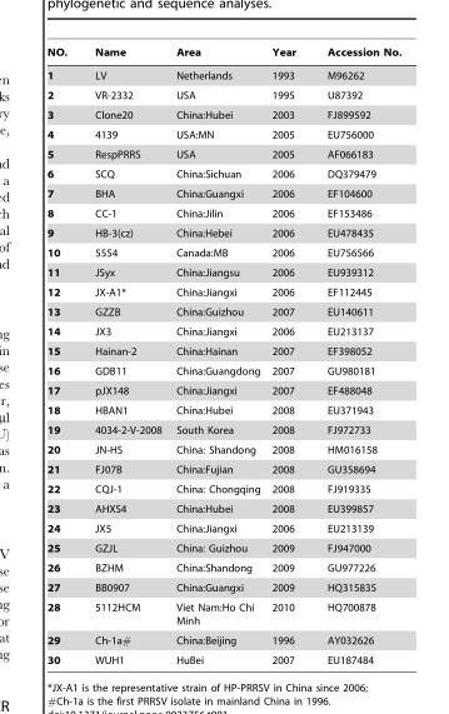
<table><thead><tr><td>NO.</td><td>Name</td><td>Area</td><td>Year</td><td>Accession No.</td></tr></thead><tbody><tr><td>1</td><td>LV</td><td>Netherlands</td><td>1993</td><td>M96262</td></tr><tr><td>2</td><td>VR-2332</td><td>USA</td><td>1995</td><td>U87392</td></tr><tr><td>3</td><td>Clone20</td><td>China:Hubei</td><td>2003</td><td>FJ899592</td></tr><tr><td>4</td><td>4139</td><td>USA:MN</td><td>2005</td><td>EU756000</td></tr><tr><td>5</td><td>RespPRRS</td><td>USA</td><td>2005</td><td>AF066183</td></tr><tr><td>6</td><td>SCQ</td><td>China:Sichuan</td><td>2006</td><td>DQ379479</td></tr><tr><td>7</td><td>BHA</td><td>China:Guangxi</td><td>2006</td><td>EF104600</td></tr><tr><td>8</td><td>CC-1</td><td>China:Jilin</td><td>2006</td><td>EF153486</td></tr><tr><td>9</td><td>HB-3(cz)</td><td>China:Hebei</td><td>2006</td><td>EU478435</td></tr><tr><td>10</td><td>5554</td><td>Canada:MB</td><td>2006</td><td>EU756566</td></tr><tr><td>11</td><td>JSyx</td><td>China:Jiangsu</td><td>2006</td><td>EU939312</td></tr><tr><td>12</td><td>JX-A1*</td><td>China:Jiangxi</td><td>2006</td><td>EF112445</td></tr><tr><td>13</td><td>GZZB</td><td>China:Guizhou</td><td>2007</td><td>EU140611</td></tr><tr><td>14</td><td>JX3</td><td>China:Jiangxi</td><td>2006</td><td>EU213137</td></tr><tr><td>15</td><td>Hainan-2</td><td>China:Hainan</td><td>2007</td><td>EF398052</td></tr><tr><td>16</td><td>GDB11</td><td>China:Guangdong</td><td>2007</td><td>GU980181</td></tr><tr><td>17</td><td>pJX148</td><td>China:Jiangxi</td><td>2007</td><td>EF488048</td></tr><tr><td>18</td><td>HBAN1</td><td>China:Hubei</td><td>2008</td><td>EU371943</td></tr><tr><td>19</td><td>4034-2-V-2008</td><td>South Korea</td><td>2008</td><td>FJ972733</td></tr><tr><td>20</td><td>JN-HS</td><td>China: Shandong</td><td>2008</td><td>HM016158</td></tr><tr><td>21</td><td>FJ07B</td><td>China:Fujian</td><td>2008</td><td>GU358694</td></tr><tr><td>22</td><td>CQJ-1</td><td>China: Chongqing</td><td>2008</td><td>FJ919335</td></tr><tr><td>23</td><td>AHXS4</td><td>China:Hubei</td><td>2008</td><td>EU399857</td></tr><tr><td>24</td><td>JX5</td><td>China:Jiangxi</td><td>2006</td><td>EU213139</td></tr><tr><td>25</td><td>GZJL</td><td>China: Guizhou</td><td>2009</td><td>FJ947000</td></tr><tr><td>26</td><td>BZHM</td><td>China:Shandong</td><td>2009</td><td>GU977226</td></tr><tr><td>27</td><td>BB0907</td><td>China:Guangxi</td><td>2009</td><td>HQ315835</td></tr><tr><td>28</td><td>5112HCM</td><td>Viet Nam:Ho Chi Minh</td><td>2010</td><td>HQ700878</td></tr><tr><td>29</td><td>Ch-1a#</td><td>China:Beijing</td><td>1996</td><td>AY032626</td></tr><tr><td>30</td><td>WUH1</td><td>HuBei</td><td>2007</td><td>EU187484</td></tr></tbody></table>